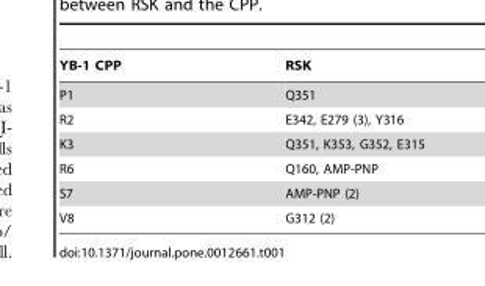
<table><thead><tr><td>YB-1 CPP</td><td>RSK</td></tr></thead><tbody><tr><td>P1</td><td>Q351</td></tr><tr><td>R2</td><td>E342, E279 (3), Y316</td></tr><tr><td>K3</td><td>Q351, K353, G352, E315</td></tr><tr><td>R6</td><td>Q160, AMP-PNP</td></tr><tr><td>S7</td><td>AMP-PNP (2)</td></tr><tr><td>V8</td><td>G312 (2)</td></tr></tbody></table>